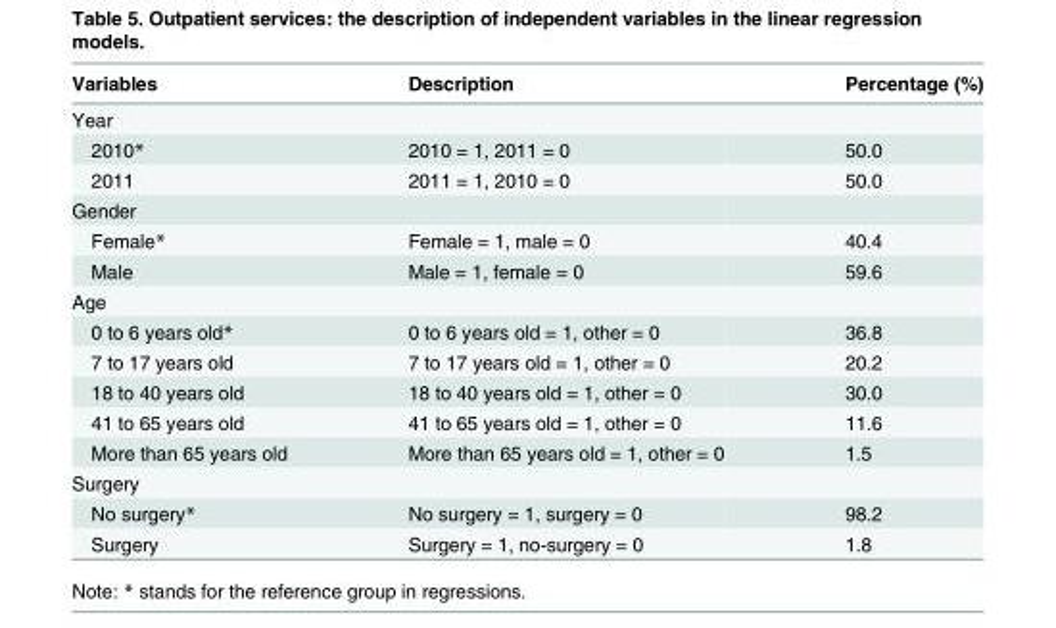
<table><thead><tr><td>Variables</td><td>Description</td><td>Percentage (%)</td></tr></thead><tbody><tr><td colspan="3">Year</td></tr><tr><td>2010*</td><td>2010 = 1, 2011 = 0</td><td>50.0</td></tr><tr><td>2011</td><td>2011 = 1, 2010 = 0</td><td>50.0</td></tr><tr><td colspan="3">Gender</td></tr><tr><td>Female*</td><td>Female = 1, male = 0</td><td>40.4</td></tr><tr><td>Male</td><td>Male = 1, female = 0</td><td>59.6</td></tr><tr><td colspan="3">Age</td></tr><tr><td>0 to 6 years old*</td><td>0 to 6 years old = 1, other = 0</td><td>36.8</td></tr><tr><td>7 to 17 years old</td><td>7 to 17 years old = 1, other = 0</td><td>20.2</td></tr><tr><td>18 to 40 years old</td><td>18 to 40 years old = 1, other = 0</td><td>30.0</td></tr><tr><td>41 to 65 years old</td><td>41 to 65 years old = 1, other = 0</td><td>11.6</td></tr><tr><td>More than 65 years old</td><td>More than 65 years old = 1, other = 0</td><td>1.5</td></tr><tr><td colspan="3">Surgery</td></tr><tr><td>No surgery*</td><td>No surgery = 1, surgery = 0</td><td>98.2</td></tr><tr><td>Surgery</td><td>Surgery = 1, no-surgery = 0</td><td>1.8</td></tr></tbody></table>